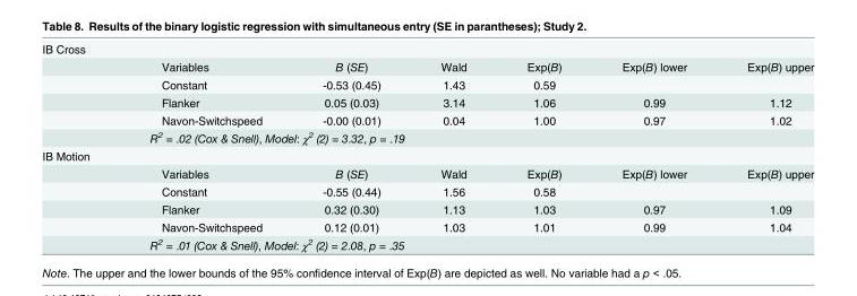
<table><tbody><tr><td colspan="7">IB Cross</td></tr><tr><td></td><td>Variables</td><td>B (SE)</td><td>Wald</td><td>Exp(B)</td><td>Exp(B) lower</td><td>Exp(B) upper</td></tr><tr><td></td><td>Constant</td><td>-0.53 (0.45)</td><td>1.43</td><td>0.59</td><td></td><td></td></tr><tr><td></td><td>Flanker</td><td>0.05 (0.03)</td><td>3.14</td><td>1.06</td><td>0.99</td><td>1.12</td></tr><tr><td></td><td>Navon-Switchspeed</td><td>-0.00 (0.01)</td><td>0.04</td><td>1.00</td><td>0.97</td><td>1.02</td></tr><tr><td></td><td colspan="6">R<sup>2</sup> = .02 (Cox &amp; Snell), Model: χ<sup>2</sup> (2) = 3.32, p = .19</td></tr><tr><td colspan="7">IB Motion</td></tr><tr><td></td><td>Variables</td><td>B (SE)</td><td>Wald</td><td>Exp(B)</td><td>Exp(B) lower</td><td>Exp(B) upper</td></tr><tr><td></td><td>Constant</td><td>-0.55 (0.44)</td><td>1.56</td><td>0.58</td><td></td><td></td></tr><tr><td></td><td>Flanker</td><td>0.32 (0.30)</td><td>1.13</td><td>1.03</td><td>0.97</td><td>1.09</td></tr><tr><td></td><td>Navon-Switchspeed</td><td>0.12 (0.01)</td><td>1.03</td><td>1.01</td><td>0.99</td><td>1.04</td></tr><tr><td></td><td colspan="6">R<sup>2</sup> = .01 (Cox &amp; Snell), Model: χ<sup>2</sup> (2) = 2.08, p = .35</td></tr></tbody></table>